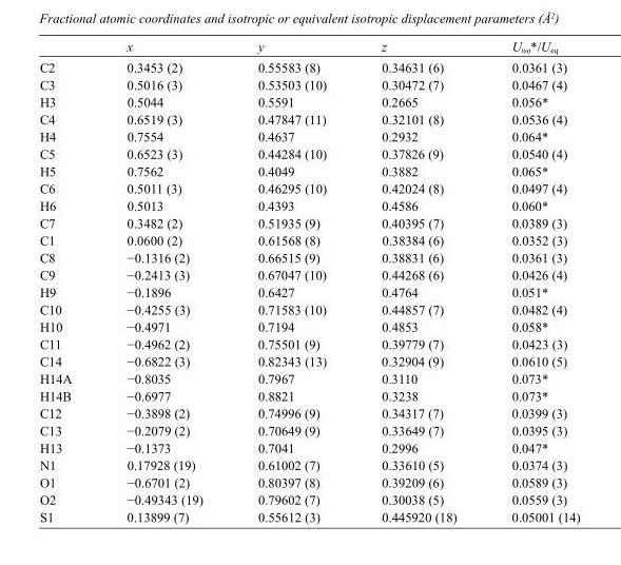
<table><thead><tr><td></td><td>x</td><td>y</td><td>z</td><td>U<sub>iso</sub>*/U<sub>eq</sub></td></tr></thead><tbody><tr><td>C2</td><td>0.3453 (2)</td><td>0.55583 (8)</td><td>0.34631 (6)</td><td>0.0361 (3)</td></tr><tr><td>C3</td><td>0.5016 (3)</td><td>0.53503 (10)</td><td>0.30472 (7)</td><td>0.0467 (4)</td></tr><tr><td>H3</td><td>0.5044</td><td>0.5591</td><td>0.2665</td><td>0.056*</td></tr><tr><td>C4</td><td>0.6519 (3)</td><td>0.47847 (11)</td><td>0.32101 (8)</td><td>0.0536 (4)</td></tr><tr><td>H4</td><td>0.7554</td><td>0.4637</td><td>0.2932</td><td>0.064*</td></tr><tr><td>C5</td><td>0.6523 (3)</td><td>0.44284 (10)</td><td>0.37826 (9)</td><td>0.0540 (4)</td></tr><tr><td>H5</td><td>0.7562</td><td>0.4049</td><td>0.3882</td><td>0.065*</td></tr><tr><td>C6</td><td>0.5011 (3)</td><td>0.46295 (10)</td><td>0.42024 (8)</td><td>0.0497 (4)</td></tr><tr><td>H6</td><td>0.5013</td><td>0.4393</td><td>0.4586</td><td>0.060*</td></tr><tr><td>C7</td><td>0.3482 (2)</td><td>0.51935 (9)</td><td>0.40395 (7)</td><td>0.0389 (3)</td></tr><tr><td>C1</td><td>0.0600 (2)</td><td>0.61568 (8)</td><td>0.38384 (6)</td><td>0.0352 (3)</td></tr><tr><td>C8</td><td>−0.1316 (2)</td><td>0.66515 (9)</td><td>0.38831 (6)</td><td>0.0361 (3)</td></tr><tr><td>C9</td><td>−0.2413 (3)</td><td>0.67047 (10)</td><td>0.44268 (6)</td><td>0.0426 (4)</td></tr><tr><td>H9</td><td>−0.1896</td><td>0.6427</td><td>0.4764</td><td>0.051*</td></tr><tr><td>C10</td><td>−0.4255 (3)</td><td>0.71583 (10)</td><td>0.44857 (7)</td><td>0.0482 (4)</td></tr><tr><td>H10</td><td>−0.4971</td><td>0.7194</td><td>0.4853</td><td>0.058*</td></tr><tr><td>C11</td><td>−0.4962 (2)</td><td>0.75501 (9)</td><td>0.39779 (7)</td><td>0.0423 (3)</td></tr><tr><td>C14</td><td>−0.6822 (3)</td><td>0.82343 (13)</td><td>0.32904 (9)</td><td>0.0610 (5)</td></tr><tr><td>H14A</td><td>−0.8035</td><td>0.7967</td><td>0.3110</td><td>0.073*</td></tr><tr><td>H14B</td><td>−0.6977</td><td>0.8821</td><td>0.3238</td><td>0.073*</td></tr><tr><td>C12</td><td>−0.3898 (2)</td><td>0.74996 (9)</td><td>0.34317 (7)</td><td>0.0399 (3)</td></tr><tr><td>C13</td><td>−0.2079 (2)</td><td>0.70649 (9)</td><td>0.33649 (7)</td><td>0.0395 (3)</td></tr><tr><td>H13</td><td>−0.1373</td><td>0.7041</td><td>0.2996</td><td>0.047*</td></tr><tr><td>N1</td><td>0.17928 (19)</td><td>0.61002 (7)</td><td>0.33610 (5)</td><td>0.0374 (3)</td></tr><tr><td>O1</td><td>−0.6701 (2)</td><td>0.80397 (8)</td><td>0.39209 (6)</td><td>0.0589 (3)</td></tr><tr><td>O2</td><td>−0.49343 (19)</td><td>0.79602 (7)</td><td>0.30038 (5)</td><td>0.0559 (3)</td></tr><tr><td>S1</td><td>0.13899 (7)</td><td>0.55612 (3)</td><td>0.445920 (18)</td><td>0.05001 (14)</td></tr></tbody></table>